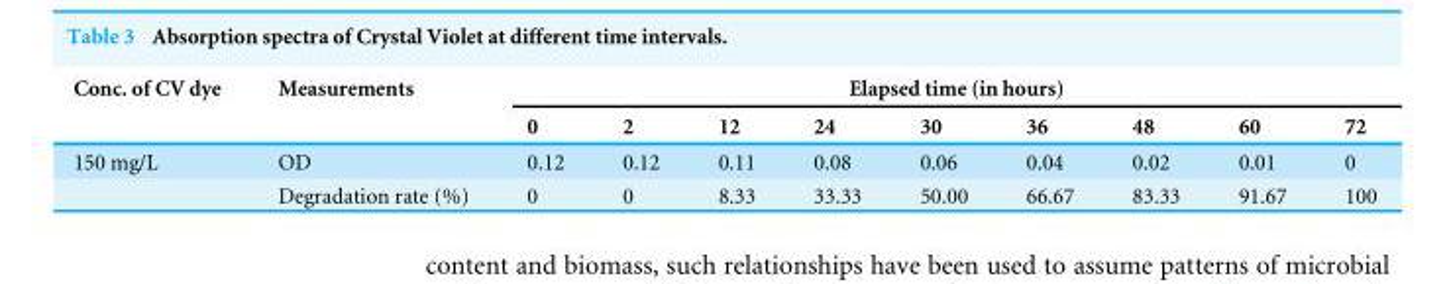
<table><thead><tr><td rowspan="2">Conc. of CV dye</td><td rowspan="2">Measurements</td><td colspan="9">Elapsed time (in hours)</td></tr><tr><td>0</td><td>2</td><td>12</td><td>24</td><td>30</td><td>36</td><td>48</td><td>60</td><td>72</td></tr></thead><tbody><tr><td rowspan="2">150 mg/L</td><td>OD</td><td>0.12</td><td>0.12</td><td>0.11</td><td>0.08</td><td>0.06</td><td>0.04</td><td>0.02</td><td>0.01</td><td>0</td></tr><tr><td>Degradation rate (%)</td><td>0</td><td>0</td><td>8.33</td><td>33.33</td><td>50.00</td><td>66.67</td><td>83.33</td><td>91.67</td><td>100</td></tr></tbody></table>